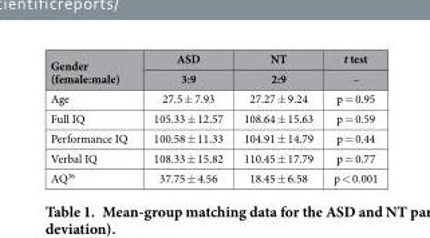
<table><thead><tr><td rowspan="2">Gender (female:male)</td><td rowspan="2">ASD 3:9</td><td rowspan="2">NT 2:9</td><td rowspan="2">t test –</td></tr><tr></tr></thead><tbody><tr><td>Age</td><td>27.5 ± 7.93</td><td>27.27 ± 9.24</td><td>p = 0.95</td></tr><tr><td>Full IQ</td><td>105.33 ± 12.57</td><td>108.64 ± 15.63</td><td>p = 0.59</td></tr><tr><td>Performance IQ</td><td>100.58 ± 11.33</td><td>104.91 ± 14.79</td><td>p = 0.44</td></tr><tr><td>Verbal IQ</td><td>108.33 ± 15.82</td><td>110.45 ± 17.79</td><td>p = 0.77</td></tr><tr><td>AQ<sup>36</sup></td><td>37.75 ± 4.56</td><td>18.45 ± 6.58</td><td>p &lt; 0.001</td></tr></tbody></table>